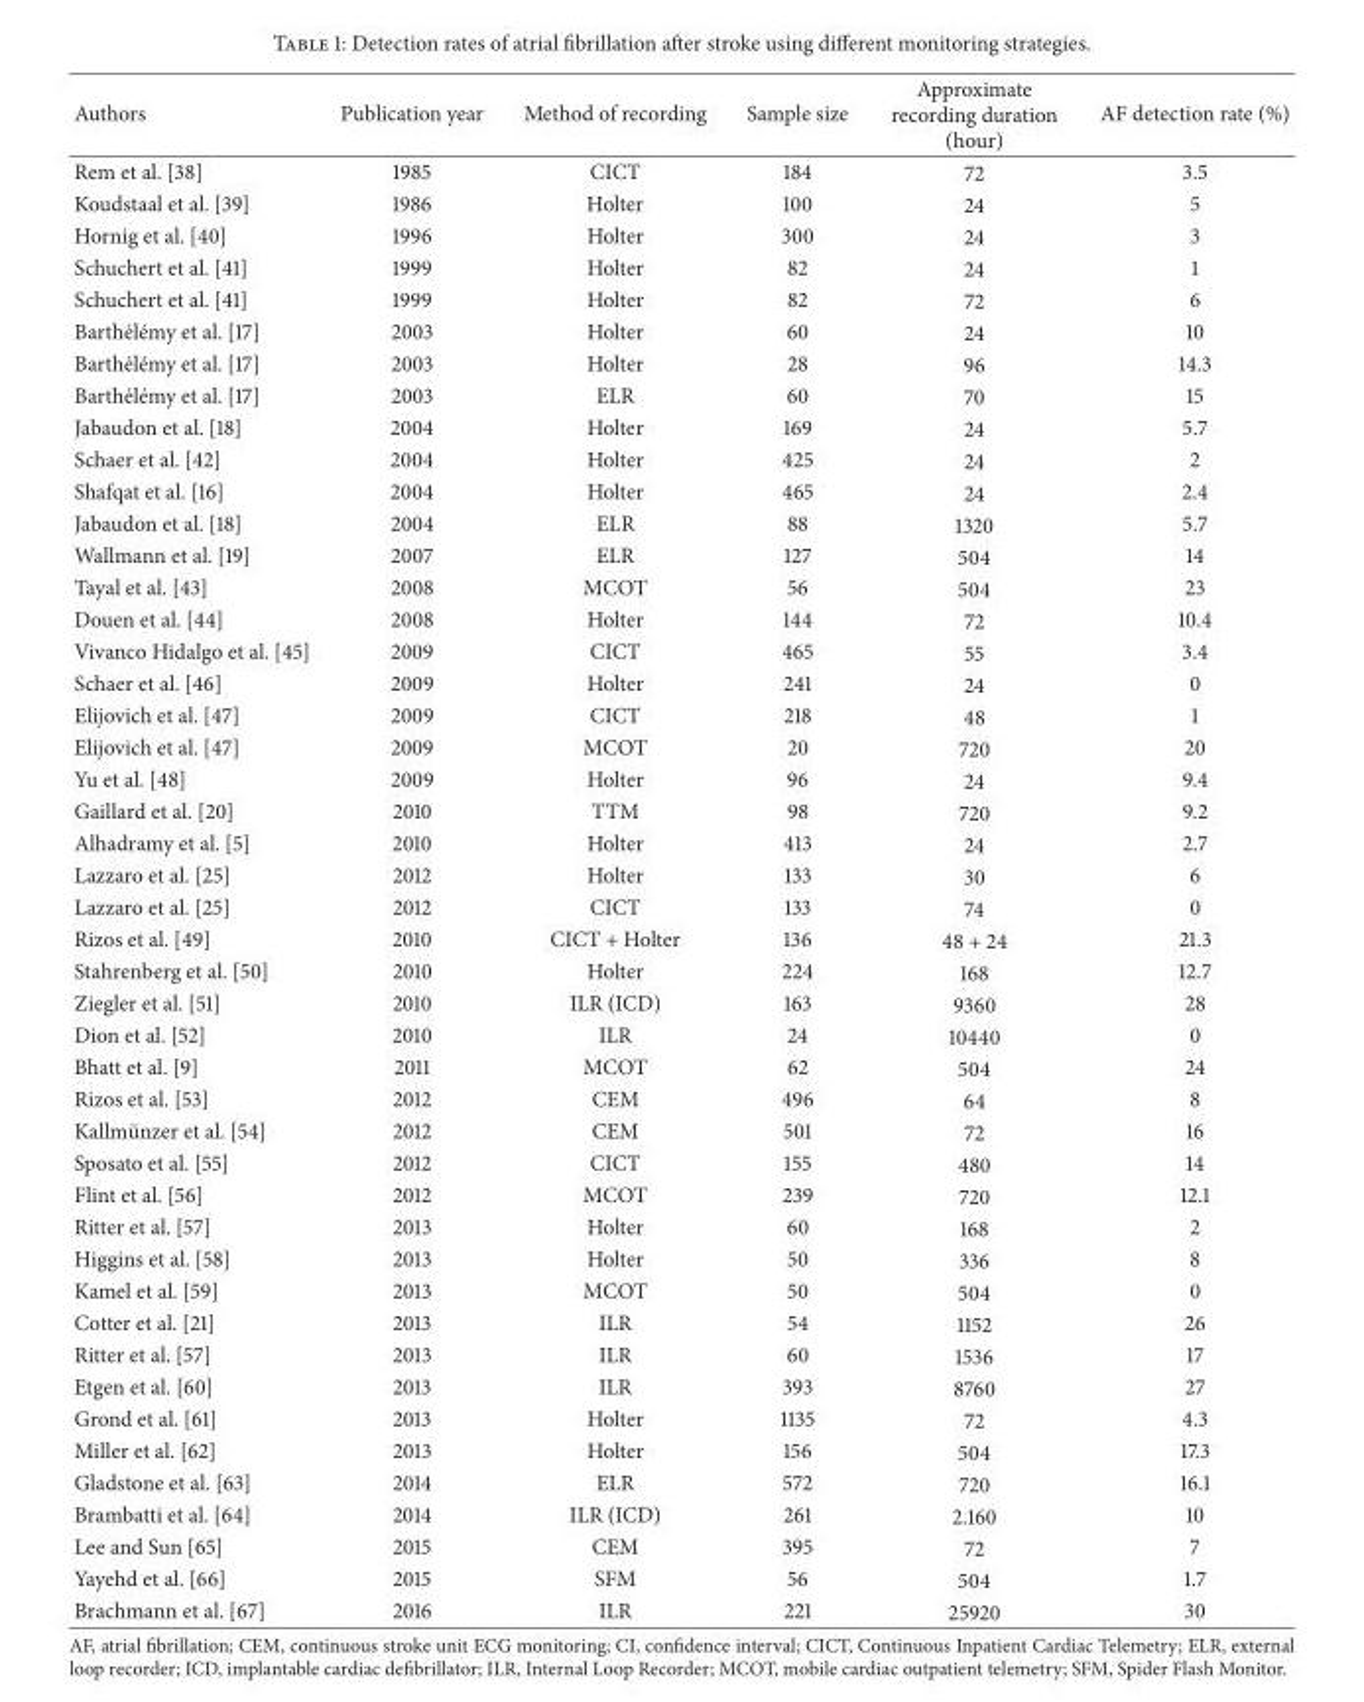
<table><thead><tr><td>Authors</td><td>Publication year</td><td>Method of recording</td><td>Sample size</td><td>Approximate recording duration (hour)</td><td>AF detection rate (%)</td></tr></thead><tbody><tr><td>Rem et al. [38]</td><td>1985</td><td>CICT</td><td>184</td><td>72</td><td>3.5</td></tr><tr><td>Koudstaal et al. [39]</td><td>1986</td><td>Holter</td><td>100</td><td>24</td><td>5</td></tr><tr><td>Hornig et al. [40]</td><td>1996</td><td>Holter</td><td>300</td><td>24</td><td>3</td></tr><tr><td>Schuchert et al. [41]</td><td>1999</td><td>Holter</td><td>82</td><td>24</td><td>1</td></tr><tr><td>Schuchert et al. [41]</td><td>1999</td><td>Holter</td><td>82</td><td>72</td><td>6</td></tr><tr><td>Barth´el´emy et al. [17]</td><td>2003</td><td>Holter</td><td>60</td><td>24</td><td>10</td></tr><tr><td>Barth´el´emy et al. [17]</td><td>2003</td><td>Holter</td><td>28</td><td>96</td><td>14.3</td></tr><tr><td>Barth´el´emy et al. [17]</td><td>2003</td><td>ELR</td><td>60</td><td>70</td><td>15</td></tr><tr><td>Jabaudon et al. [18]</td><td>2004</td><td>Holter</td><td>169</td><td>24</td><td>5.7</td></tr><tr><td>Schaer et al. [42]</td><td>2004</td><td>Holter</td><td>425</td><td>24</td><td>2</td></tr><tr><td>Shafqat et al. [16]</td><td>2004</td><td>Holter</td><td>465</td><td>24</td><td>2.4</td></tr><tr><td>Jabaudon et al. [18]</td><td>2004</td><td>ELR</td><td>88</td><td>1320</td><td>5.7</td></tr><tr><td>Wallmann et al. [19]</td><td>2007</td><td>ELR</td><td>127</td><td>504</td><td>14</td></tr><tr><td>Tayal et al. [43]</td><td>2008</td><td>MCOT</td><td>56</td><td>504</td><td>23</td></tr><tr><td>Douen et al. [44]</td><td>2008</td><td>Holter</td><td>144</td><td>72</td><td>10.4</td></tr><tr><td>Vivanco Hidalgo et al. [45]</td><td>2009</td><td>CICT</td><td>465</td><td>55</td><td>3.4</td></tr><tr><td>Schaer et al. [46]</td><td>2009</td><td>Holter</td><td>241</td><td>24</td><td>0</td></tr><tr><td>Elijovich et al. [47]</td><td>2009</td><td>CICT</td><td>218</td><td>48</td><td>1</td></tr><tr><td>Elijovich et al. [47]</td><td>2009</td><td>MCOT</td><td>20</td><td>720</td><td>20</td></tr><tr><td>Yu et al. [48]</td><td>2009</td><td>Holter</td><td>96</td><td>24</td><td>9.4</td></tr><tr><td>Gaillard et al. [20]</td><td>2010</td><td>TTM</td><td>98</td><td>720</td><td>9.2</td></tr><tr><td>Alhadramy et al. [5]</td><td>2010</td><td>Holter</td><td>413</td><td>24</td><td>2.7</td></tr><tr><td>Lazzaro et al. [25]</td><td>2012</td><td>Holter</td><td>133</td><td>30</td><td>6</td></tr><tr><td>Lazzaro et al. [25]</td><td>2012</td><td>CICT</td><td>133</td><td>74</td><td>0</td></tr><tr><td>Rizos et al. [49]</td><td>2010</td><td>CICT + Holter</td><td>136</td><td>48 + 24</td><td>21.3</td></tr><tr><td>Stahrenberg et al. [50]</td><td>2010</td><td>Holter</td><td>224</td><td>168</td><td>12.7</td></tr><tr><td>Ziegler et al. [51]</td><td>2010</td><td>ILR (ICD)</td><td>163</td><td>9360</td><td>28</td></tr><tr><td>Dion et al. [52]</td><td>2010</td><td>ILR</td><td>24</td><td>10440</td><td>0</td></tr><tr><td>Bhatt et al. [9]</td><td>2011</td><td>MCOT</td><td>62</td><td>504</td><td>24</td></tr><tr><td>Rizos et al. [53]</td><td>2012</td><td>CEM</td><td>496</td><td>64</td><td>8</td></tr><tr><td>Kallm¨unzer et al. [54]</td><td>2012</td><td>CEM</td><td>501</td><td>72</td><td>16</td></tr><tr><td>Sposato et al. [55]</td><td>2012</td><td>CICT</td><td>155</td><td>480</td><td>14</td></tr><tr><td>Flint et al. [56]</td><td>2012</td><td>MCOT</td><td>239</td><td>720</td><td>12.1</td></tr><tr><td>Ritter et al. [57]</td><td>2013</td><td>Holter</td><td>60</td><td>168</td><td>2</td></tr><tr><td>Higgins et al. [58]</td><td>2013</td><td>Holter</td><td>50</td><td>336</td><td>8</td></tr><tr><td>Kamel et al. [59]</td><td>2013</td><td>MCOT</td><td>50</td><td>504</td><td>0</td></tr><tr><td>Cotter et al. [21]</td><td>2013</td><td>ILR</td><td>54</td><td>1152</td><td>26</td></tr><tr><td>Ritter et al. [57]</td><td>2013</td><td>ILR</td><td>60</td><td>1536</td><td>17</td></tr><tr><td>Etgen et al. [60]</td><td>2013</td><td>ILR</td><td>393</td><td>8760</td><td>27</td></tr><tr><td>Grond et al. [61]</td><td>2013</td><td>Holter</td><td>1135</td><td>72</td><td>4.3</td></tr><tr><td>Miller et al. [62]</td><td>2013</td><td>Holter</td><td>156</td><td>504</td><td>17.3</td></tr><tr><td>Gladstone et al. [63]</td><td>2014</td><td>ELR</td><td>572</td><td>720</td><td>16.1</td></tr><tr><td>Brambatti et al. [64]</td><td>2014</td><td>ILR (ICD)</td><td>261</td><td>2.160</td><td>10</td></tr><tr><td>Lee and Sun [65]</td><td>2015</td><td>CEM</td><td>395</td><td>72</td><td>7</td></tr><tr><td>Yayehd et al. [66]</td><td>2015</td><td>SFM</td><td>56</td><td>504</td><td>1.7</td></tr><tr><td>Brachmann et al. [67]</td><td>2016</td><td>ILR</td><td>221</td><td>25920</td><td>30</td></tr></tbody></table>